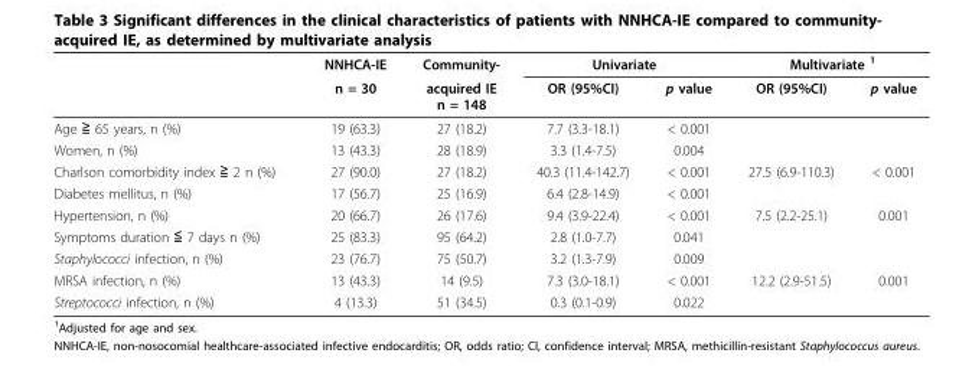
<table><thead><tr><td rowspan="2"></td><td rowspan="2">NNHCA-IE n = 30</td><td rowspan="2">Community- acquired IE n = 148</td><td colspan="2">Univariate</td><td colspan="2">Multivariate <sup>1</sup></td></tr><tr><td>OR (95%CI)</td><td>p value</td><td>OR (95%CI)</td><td>p value</td></tr></thead><tbody><tr><td>Age ≧ 65 years, n (%)</td><td>19 (63.3)</td><td>27 (18.2)</td><td>7.7 (3.3-18.1)</td><td>&lt; 0.001</td><td></td><td></td></tr><tr><td>Women, n (%)</td><td>13 (43.3)</td><td>28 (18.9)</td><td>3.3 (1.4-7.5)</td><td>0.004</td><td></td><td></td></tr><tr><td>Charlson comorbidity index ≧ 2 n (%)</td><td>27 (90.0)</td><td>27 (18.2)</td><td>40.3 (11.4-142.7)</td><td>&lt; 0.001</td><td>27.5 (6.9-110.3)</td><td>&lt; 0.001</td></tr><tr><td>Diabetes mellitus, n (%)</td><td>17 (56.7)</td><td>25 (16.9)</td><td>6.4 (2.8-14.9)</td><td>&lt; 0.001</td><td></td><td></td></tr><tr><td>Hypertension, n (%)</td><td>20 (66.7)</td><td>26 (17.6)</td><td>9.4 (3.9-22.4)</td><td>&lt; 0.001</td><td>7.5 (2.2-25.1)</td><td>0.001</td></tr><tr><td>Symptoms duration ≦ 7 days n (%)</td><td>25 (83.3)</td><td>95 (64.2)</td><td>2.8 (1.0-7.7)</td><td>0.041</td><td></td><td></td></tr><tr><td>Staphylococci infection, n (%)</td><td>23 (76.7)</td><td>75 (50.7)</td><td>3.2 (1.3-7.9)</td><td>0.009</td><td></td><td></td></tr><tr><td>MRSA infection, n (%)</td><td>13 (43.3)</td><td>14 (9.5)</td><td>7.3 (3.0-18.1)</td><td>&lt; 0.001</td><td>12.2 (2.9-51.5)</td><td>0.001</td></tr><tr><td>Streptococci infection, n (%)</td><td>4 (13.3)</td><td>51 (34.5)</td><td>0.3 (0.1-0.9)</td><td>0.022</td><td></td><td></td></tr></tbody></table>